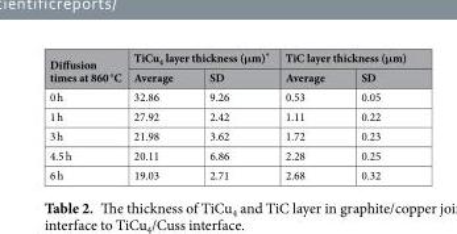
<table><thead><tr><td rowspan="2">Diffusion times at 860 °C</td><td colspan="2">TiCu<sub>4</sub> layer thickness (μm)*</td><td colspan="2">TiC layer thickness (μm)</td></tr><tr><td>Average</td><td>SD</td><td>Average</td><td>SD</td></tr></thead><tbody><tr><td>0 h</td><td>32.86</td><td>9.26</td><td>0.53</td><td>0.05</td></tr><tr><td>1 h</td><td>27.92</td><td>2.42</td><td>1.11</td><td>0.22</td></tr><tr><td>3 h</td><td>21.98</td><td>3.62</td><td>1.72</td><td>0.23</td></tr><tr><td>4.5 h</td><td>20.11</td><td>6.86</td><td>2.28</td><td>0.25</td></tr><tr><td>6 h</td><td>19.03</td><td>2.71</td><td>2.68</td><td>0.32</td></tr></tbody></table>